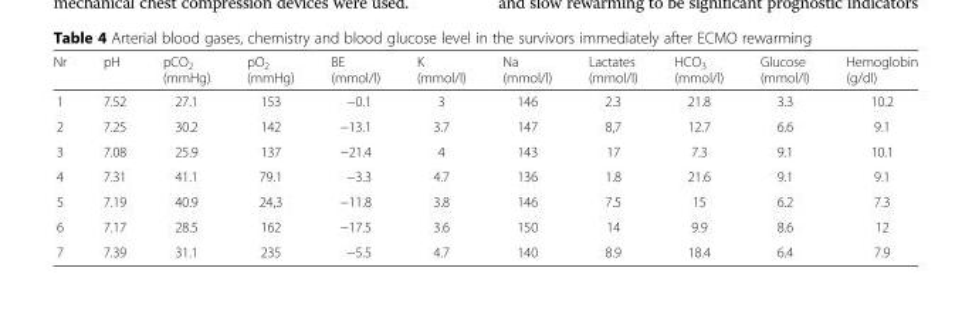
<table><thead><tr><td>Nr</td><td>pH</td><td>pCO<sub>2</sub> (mmHg)</td><td>pO<sub>2</sub> (mmHg)</td><td>BE (mmol/l)</td><td>K (mmol/l)</td><td>Na (mmol/l)</td><td>Lactates (mmol/l)</td><td>HCO<sub>3</sub> (mmol/l)</td><td>Glucose (mmol/l)</td><td>Hemoglobin (g/dl)</td></tr></thead><tbody><tr><td>1</td><td>7.52</td><td>27.1</td><td>153</td><td>−0.1</td><td>3</td><td>146</td><td>2.3</td><td>21.8</td><td>3.3</td><td>10.2</td></tr><tr><td>2</td><td>7.25</td><td>30.2</td><td>142</td><td>−13.1</td><td>3.7</td><td>147</td><td>8,7</td><td>12.7</td><td>6.6</td><td>9.1</td></tr><tr><td>3</td><td>7.08</td><td>25.9</td><td>137</td><td>−21.4</td><td>4</td><td>143</td><td>17</td><td>7.3</td><td>9.1</td><td>10.1</td></tr><tr><td>4</td><td>7.31</td><td>41.1</td><td>79.1</td><td>−3.3</td><td>4.7</td><td>136</td><td>1.8</td><td>21.6</td><td>9.1</td><td>9.1</td></tr><tr><td>5</td><td>7.19</td><td>40.9</td><td>24,3</td><td>−11.8</td><td>3.8</td><td>146</td><td>7.5</td><td>15</td><td>6.2</td><td>7.3</td></tr><tr><td>6</td><td>7.17</td><td>28.5</td><td>162</td><td>−17.5</td><td>3.6</td><td>150</td><td>14</td><td>9.9</td><td>8.6</td><td>12</td></tr><tr><td>7</td><td>7.39</td><td>31.1</td><td>235</td><td>−5.5</td><td>4.7</td><td>140</td><td>8.9</td><td>18.4</td><td>6.4</td><td>7.9</td></tr></tbody></table>